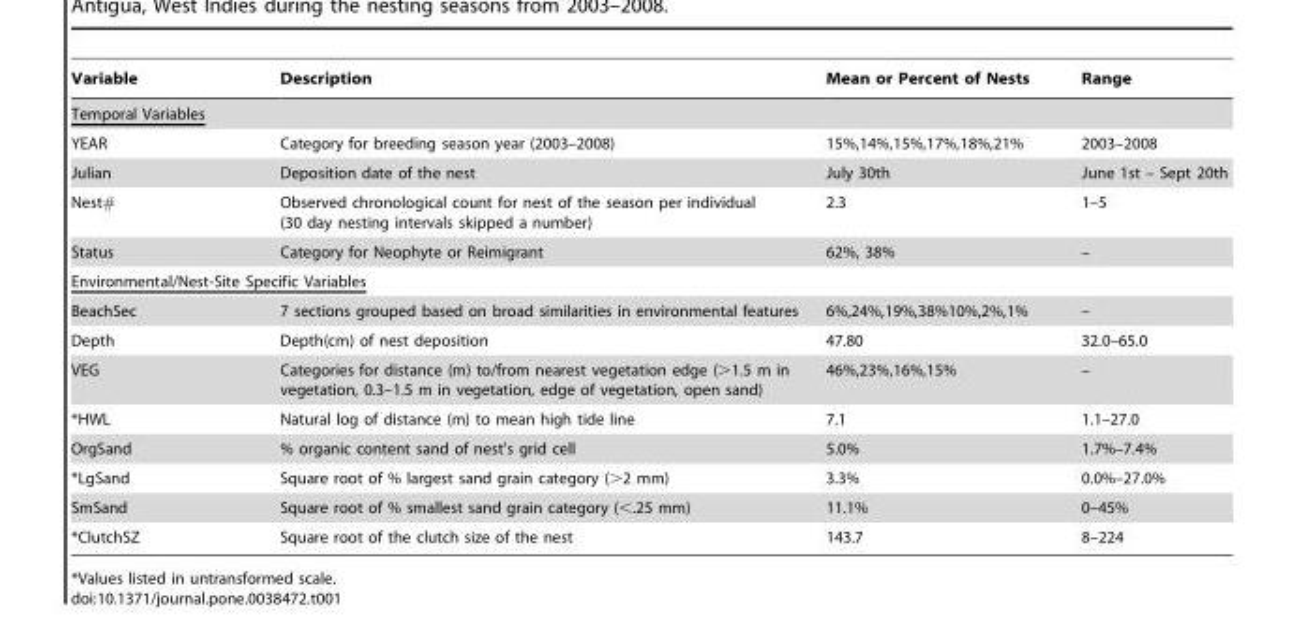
<table><thead><tr><td>Variable</td><td>Description</td><td>Mean or Percent of Nests</td><td>Range</td></tr></thead><tbody><tr><td colspan="4">Temporal Variables</td></tr><tr><td>YEAR</td><td>Category for breeding season year (2003–2008)</td><td>15%,14%,15%,17%,18%,21%</td><td>2003–2008</td></tr><tr><td>Julian</td><td>Deposition date of the nest</td><td>July 30th</td><td>June 1st – Sept 20th</td></tr><tr><td>Nest#</td><td>Observed chronological count for nest of the season per individual (30 day nesting intervals skipped a number)</td><td>2.3</td><td>1–5</td></tr><tr><td>Status</td><td>Category for Neophyte or Reimigrant</td><td>62%, 38%</td><td>–</td></tr><tr><td colspan="4">Environmental/Nest-Site Specific Variables</td></tr><tr><td>BeachSec</td><td>7 sections grouped based on broad similarities in environmental features</td><td>6%,24%,19%,38%10%,2%,1%</td><td>–</td></tr><tr><td>Depth</td><td>Depth(cm) of nest deposition</td><td>47.80</td><td>32.0–65.0</td></tr><tr><td>VEG</td><td>Categories for distance (m) to/from nearest vegetation edge (&gt;1.5 m in vegetation, 0.3–1.5 m in vegetation, edge of vegetation, open sand)</td><td>46%,23%,16%,15%</td><td>–</td></tr><tr><td>*HWL</td><td>Natural log of distance (m) to mean high tide line</td><td>7.1</td><td>1.1–27.0</td></tr><tr><td>OrgSand</td><td>% organic content sand of nest’s grid cell</td><td>5.0%</td><td>1.7%–7.4%</td></tr><tr><td>*LgSand</td><td>Square root of % largest sand grain category (&gt;2 mm)</td><td>3.3%</td><td>0.0%–27.0%</td></tr><tr><td>SmSand</td><td>Square root of % smallest sand grain category (&lt;.25 mm)</td><td>11.1%</td><td>0–45%</td></tr><tr><td>*ClutchSZ</td><td>Square root of the clutch size of the nest</td><td>143.7</td><td>8–224</td></tr></tbody></table>